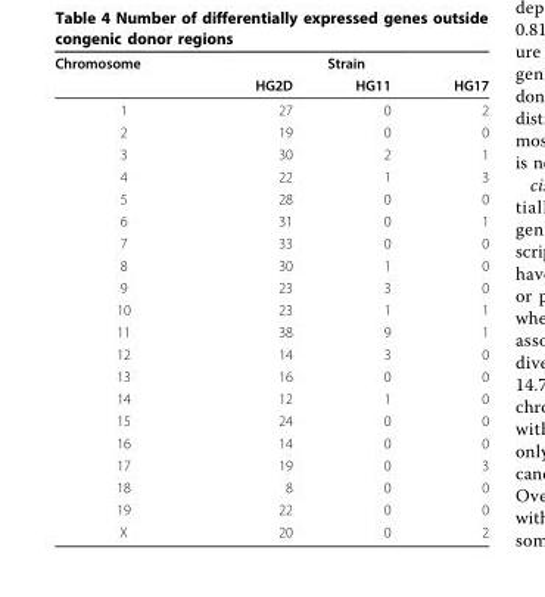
<table><thead><tr><td rowspan="2">Chromosome</td><td colspan="3">Strain</td></tr><tr><td>HG2D</td><td>HG11</td><td>HG17</td></tr></thead><tbody><tr><td>1</td><td>27</td><td>0</td><td>2</td></tr><tr><td>2</td><td>19</td><td>0</td><td>0</td></tr><tr><td>3</td><td>30</td><td>2</td><td>1</td></tr><tr><td>4</td><td>22</td><td>1</td><td>3</td></tr><tr><td>5</td><td>28</td><td>0</td><td>0</td></tr><tr><td>6</td><td>31</td><td>0</td><td>1</td></tr><tr><td>7</td><td>33</td><td>0</td><td>0</td></tr><tr><td>8</td><td>30</td><td>1</td><td>0</td></tr><tr><td>9</td><td>23</td><td>3</td><td>0</td></tr><tr><td>10</td><td>23</td><td>1</td><td>1</td></tr><tr><td>11</td><td>38</td><td>9</td><td>1</td></tr><tr><td>12</td><td>14</td><td>3</td><td>0</td></tr><tr><td>13</td><td>16</td><td>0</td><td>0</td></tr><tr><td>14</td><td>12</td><td>1</td><td>0</td></tr><tr><td>15</td><td>24</td><td>0</td><td>0</td></tr><tr><td>16</td><td>14</td><td>0</td><td>0</td></tr><tr><td>17</td><td>19</td><td>0</td><td>3</td></tr><tr><td>18</td><td>8</td><td>0</td><td>0</td></tr><tr><td>19</td><td>22</td><td>0</td><td>0</td></tr><tr><td>X</td><td>20</td><td>0</td><td>2</td></tr></tbody></table>